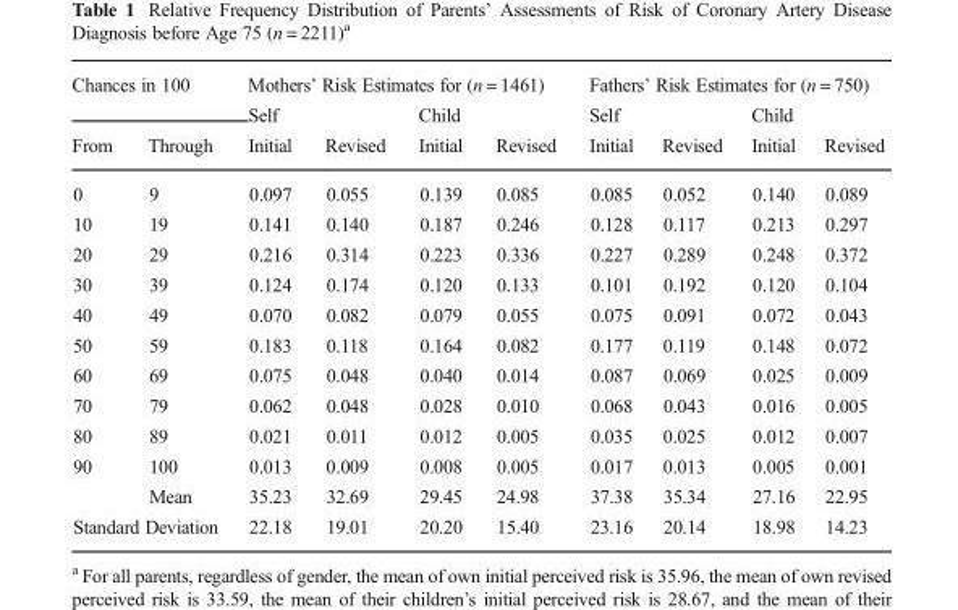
<table><thead><tr><td rowspan="2" colspan="2">Chances in 100</td><td colspan="4">Mothers’ Risk Estimates for (n = 1461)</td><td colspan="4">Fathers’ Risk Estimates for (n = 750)</td></tr><tr><td colspan="2">Self</td><td colspan="2">Child</td><td colspan="2">Self</td><td colspan="2">Child</td></tr><tr><td>From</td><td>Through</td><td>Initial</td><td>Revised</td><td>Initial</td><td>Revised</td><td>Initial</td><td>Revised</td><td>Initial</td><td>Revised</td></tr></thead><tbody><tr><td>0</td><td>9</td><td>0.097</td><td>0.055</td><td>0.139</td><td>0.085</td><td>0.085</td><td>0.052</td><td>0.140</td><td>0.089</td></tr><tr><td>10</td><td>19</td><td>0.141</td><td>0.140</td><td>0.187</td><td>0.246</td><td>0.128</td><td>0.117</td><td>0.213</td><td>0.297</td></tr><tr><td>20</td><td>29</td><td>0.216</td><td>0.314</td><td>0.223</td><td>0.336</td><td>0.227</td><td>0.289</td><td>0.248</td><td>0.372</td></tr><tr><td>30</td><td>39</td><td>0.124</td><td>0.174</td><td>0.120</td><td>0.133</td><td>0.101</td><td>0.192</td><td>0.120</td><td>0.104</td></tr><tr><td>40</td><td>49</td><td>0.070</td><td>0.082</td><td>0.079</td><td>0.055</td><td>0.075</td><td>0.091</td><td>0.072</td><td>0.043</td></tr><tr><td>50</td><td>59</td><td>0.183</td><td>0.118</td><td>0.164</td><td>0.082</td><td>0.177</td><td>0.119</td><td>0.148</td><td>0.072</td></tr><tr><td>60</td><td>69</td><td>0.075</td><td>0.048</td><td>0.040</td><td>0.014</td><td>0.087</td><td>0.069</td><td>0.025</td><td>0.009</td></tr><tr><td>70</td><td>79</td><td>0.062</td><td>0.048</td><td>0.028</td><td>0.010</td><td>0.068</td><td>0.043</td><td>0.016</td><td>0.005</td></tr><tr><td>80</td><td>89</td><td>0.021</td><td>0.011</td><td>0.012</td><td>0.005</td><td>0.035</td><td>0.025</td><td>0.012</td><td>0.007</td></tr><tr><td rowspan="2">90</td><td>100</td><td>0.013</td><td>0.009</td><td>0.008</td><td>0.005</td><td>0.017</td><td>0.013</td><td>0.005</td><td>0.001</td></tr><tr><td>Mean</td><td>35.23</td><td>32.69</td><td>29.45</td><td>24.98</td><td>37.38</td><td>35.34</td><td>27.16</td><td>22.95</td></tr><tr><td colspan="2">Standard Deviation</td><td>22.18</td><td>19.01</td><td>20.20</td><td>15.40</td><td>23.16</td><td>20.14</td><td>18.98</td><td>14.23</td></tr></tbody></table>